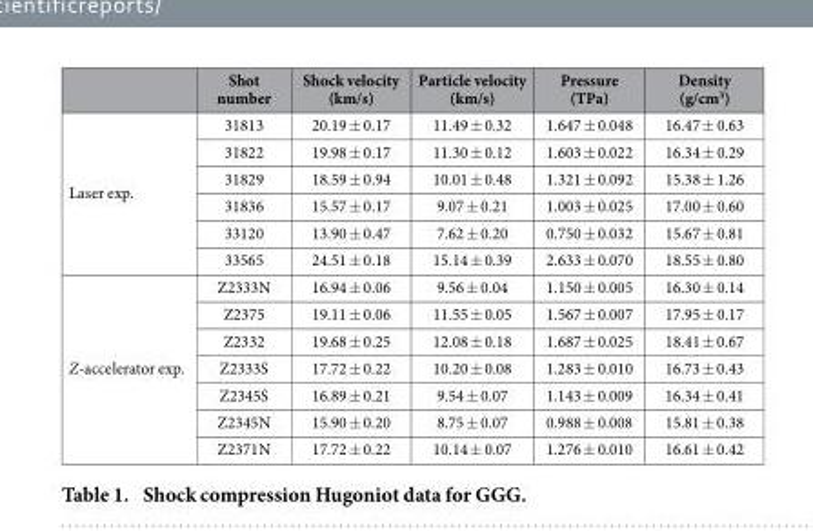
<table><thead><tr><td></td><td>Shot number</td><td>Shock velocity (km/s)</td><td>Particle velocity (km/s)</td><td>Pressure (TPa)</td><td>Density (g/cm<sup>3</sup>)</td></tr></thead><tbody><tr><td rowspan="6">Laser exp.</td><td>31813</td><td>20.19 ± 0.17</td><td>11.49 ± 0.32</td><td>1.647 ± 0.048</td><td>16.47 ± 0.63</td></tr><tr><td>31822</td><td>19.98 ± 0.17</td><td>11.30 ± 0.12</td><td>1.603 ± 0.022</td><td>16.34 ± 0.29</td></tr><tr><td>31829</td><td>18.59 ± 0.94</td><td>10.01 ± 0.48</td><td>1.321 ± 0.092</td><td>15.38 ± 1.26</td></tr><tr><td>31836</td><td>15.57 ± 0.17</td><td>9.07 ± 0.21</td><td>1.003 ± 0.025</td><td>17.00 ± 0.60</td></tr><tr><td>33120</td><td>13.90 ± 0.47</td><td>7.62 ± 0.20</td><td>0.750 ± 0.032</td><td>15.67 ± 0.81</td></tr><tr><td>33565</td><td>24.51 ± 0.18</td><td>15.14 ± 0.39</td><td>2.633 ± 0.070</td><td>18.55 ± 0.80</td></tr><tr><td rowspan="7">Z-accelerator exp.</td><td>Z2333N</td><td>16.94 ± 0.06</td><td>9.56 ± 0.04</td><td>1.150 ± 0.005</td><td>16.30 ± 0.14</td></tr><tr><td>Z2375</td><td>19.11 ± 0.06</td><td>11.55 ± 0.05</td><td>1.567 ± 0.007</td><td>17.95 ± 0.17</td></tr><tr><td>Z2332</td><td>19.68 ± 0.25</td><td>12.08 ± 0.18</td><td>1.687 ± 0.025</td><td>18.41 ± 0.67</td></tr><tr><td>Z2333S</td><td>17.72 ± 0.22</td><td>10.20 ± 0.08</td><td>1.283 ± 0.010</td><td>16.73 ± 0.43</td></tr><tr><td>Z2345S</td><td>16.89 ± 0.21</td><td>9.54 ± 0.07</td><td>1.143 ± 0.009</td><td>16.34 ± 0.41</td></tr><tr><td>Z2345N</td><td>15.90 ± 0.20</td><td>8.75 ± 0.07</td><td>0.988 ± 0.008</td><td>15.81 ± 0.38</td></tr><tr><td>Z2371N</td><td>17.72 ± 0.22</td><td>10.14 ± 0.07</td><td>1.276 ± 0.010</td><td>16.61 ± 0.42</td></tr></tbody></table>